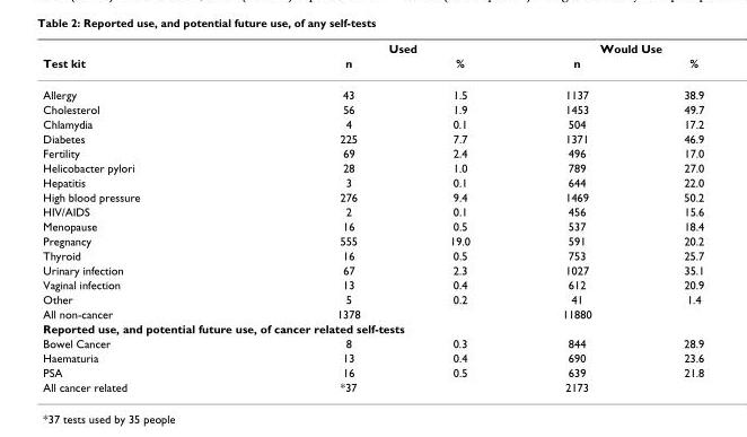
<table><thead><tr><td rowspan="2">Test kit</td><td colspan="2">Used</td><td colspan="2">Would Use</td></tr><tr><td>n</td><td>%</td><td>n</td><td>%</td></tr></thead><tbody><tr><td>Allergy</td><td>43</td><td>1.5</td><td>1137</td><td>38.9</td></tr><tr><td>Cholesterol</td><td>56</td><td>1.9</td><td>1453</td><td>49.7</td></tr><tr><td>Chlamydia</td><td>4</td><td>0.1</td><td>504</td><td>17.2</td></tr><tr><td>Diabetes</td><td>225</td><td>7.7</td><td>1371</td><td>46.9</td></tr><tr><td>Fertility</td><td>69</td><td>2.4</td><td>496</td><td>17.0</td></tr><tr><td>Helicobacter pylori</td><td>28</td><td>1.0</td><td>789</td><td>27.0</td></tr><tr><td>Hepatitis</td><td>3</td><td>0.1</td><td>644</td><td>22.0</td></tr><tr><td>High blood pressure</td><td>276</td><td>9.4</td><td>1469</td><td>50.2</td></tr><tr><td>HIV/AIDS</td><td>2</td><td>0.1</td><td>456</td><td>15.6</td></tr><tr><td>Menopause</td><td>16</td><td>0.5</td><td>537</td><td>18.4</td></tr><tr><td>Pregnancy</td><td>555</td><td>19.0</td><td>591</td><td>20.2</td></tr><tr><td>Thyroid</td><td>16</td><td>0.5</td><td>753</td><td>25.7</td></tr><tr><td>Urinary infection</td><td>67</td><td>2.3</td><td>1027</td><td>35.1</td></tr><tr><td>Vaginal infection</td><td>13</td><td>0.4</td><td>612</td><td>20.9</td></tr><tr><td>Other</td><td>5</td><td>0.2</td><td>41</td><td>1.4</td></tr><tr><td>All non-cancer</td><td>1378</td><td></td><td>11880</td><td></td></tr><tr><td colspan="5">Reported use, and potential future use, of cancer related self-tests</td></tr><tr><td>Bowel Cancer</td><td>8</td><td>0.3</td><td>844</td><td>28.9</td></tr><tr><td>Haematuria</td><td>13</td><td>0.4</td><td>690</td><td>23.6</td></tr><tr><td>PSA</td><td>16</td><td>0.5</td><td>639</td><td>21.8</td></tr><tr><td>All cancer related</td><td>*37</td><td></td><td>2173</td><td></td></tr></tbody></table>